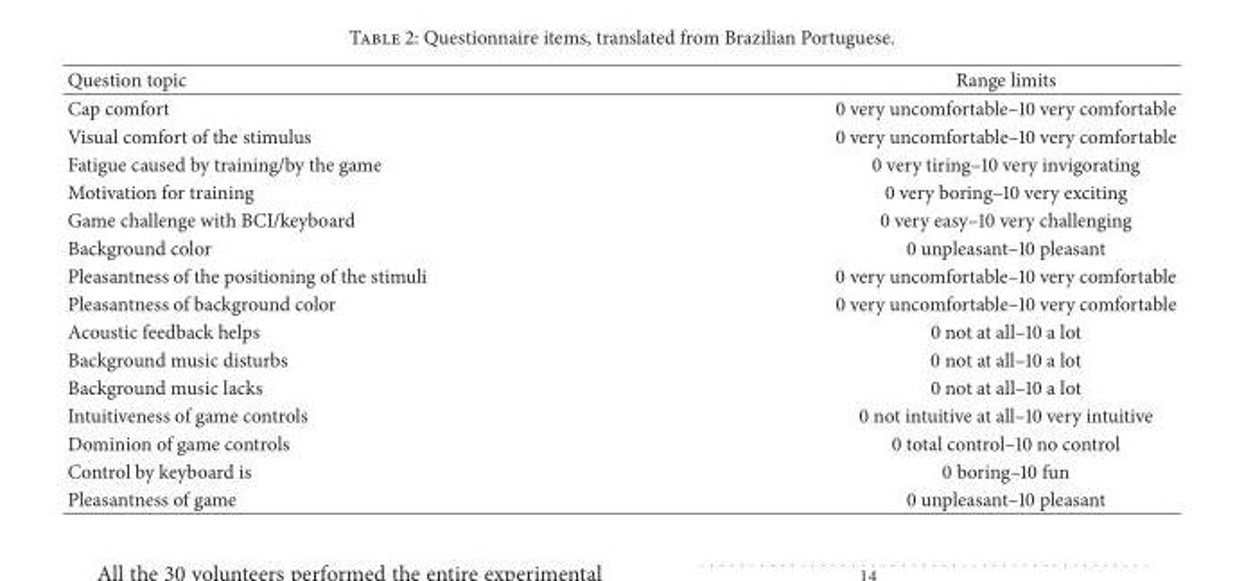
<table><thead><tr><td>Question topic</td><td>Range limits</td></tr></thead><tbody><tr><td>Cap comfort</td><td>0 very uncomfortable–10 very comfortable</td></tr><tr><td>Visual comfort of the stimulus</td><td>0 very uncomfortable–10 very comfortable</td></tr><tr><td>Fatigue caused by training/by the game</td><td>0 very tiring–10 very invigorating</td></tr><tr><td>Motivation for training</td><td>0 very boring–10 very exciting</td></tr><tr><td>Game challenge with BCI/keyboard</td><td>0 very easy–10 very challenging</td></tr><tr><td>Background color</td><td>0 unpleasant–10 pleasant</td></tr><tr><td>Pleasantness of the positioning of the stimuli</td><td>0 very uncomfortable–10 very comfortable</td></tr><tr><td>Pleasantness of background color</td><td>0 very uncomfortable–10 very comfortable</td></tr><tr><td>Acoustic feedback helps</td><td>0 not at all–10 a lot</td></tr><tr><td>Background music disturbs</td><td>0 not at all–10 a lot</td></tr><tr><td>Background music lacks</td><td>0 not at all–10 a lot</td></tr><tr><td>Intuitiveness of game controls</td><td>0 not intuitive at all–10 very intuitive</td></tr><tr><td>Dominion of game controls</td><td>0 total control–10 no control</td></tr><tr><td>Control by keyboard is</td><td>0 boring–10 fun</td></tr><tr><td>Pleasantness of game</td><td>0 unpleasant–10 pleasant</td></tr></tbody></table>